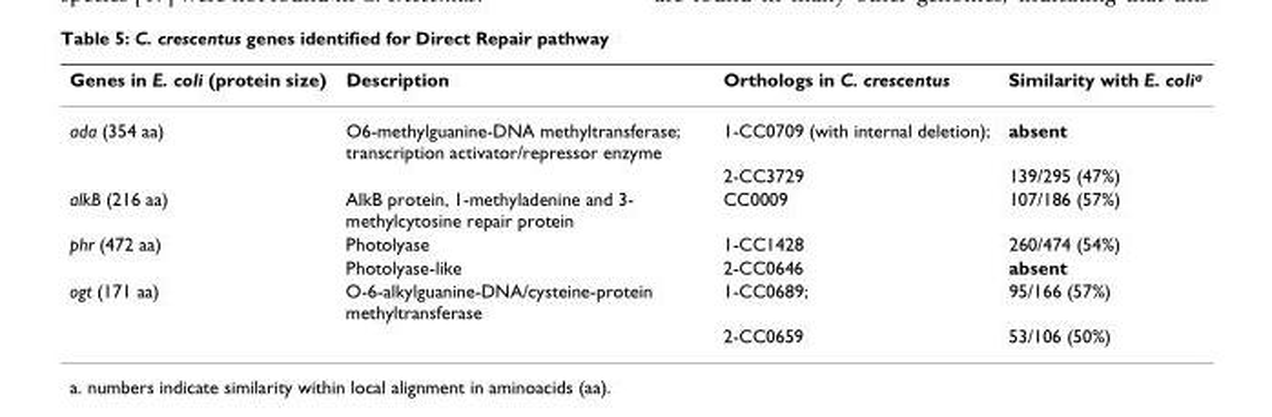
<table><thead><tr><td>Genes in E. coli (protein size)</td><td>Description</td><td>Orthologs in C. crescentus</td><td>Similarity with E. colia</td></tr></thead><tbody><tr><td rowspan="2">ada (354 aa)</td><td>O6-methylguanine-DNA methyltransferase; transcription activator/repressor enzyme</td><td>1-CC0709 (with internal deletion);</td><td>absent</td></tr><tr><td></td><td>2-CC3729</td><td>139/295 (47%)</td></tr><tr><td>alkB (216 aa)</td><td>AlkB protein, 1-methyladenine and 3- methylcytosine repair protein</td><td>CC0009</td><td>107/186 (57%)</td></tr><tr><td rowspan="2">phr (472 aa)</td><td>Photolyase</td><td>1-CC1428</td><td>260/474 (54%)</td></tr><tr><td>Photolyase-like</td><td>2-CC0646</td><td>absent</td></tr><tr><td rowspan="2">ogt (171 aa)</td><td>O-6-alkylguanine-DNA/cysteine-protein methyltransferase</td><td>1-CC0689;</td><td>95/166 (57%)</td></tr><tr><td></td><td>2-CC0659</td><td>53/106 (50%)</td></tr></tbody></table>